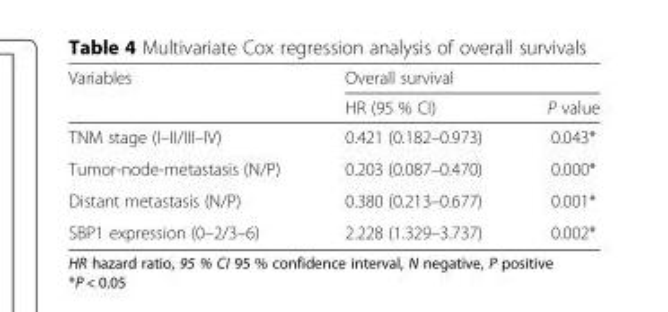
<table><thead><tr><td rowspan="2">Variables</td><td colspan="2">Overall survival</td></tr><tr><td>HR (95 % CI)</td><td>P value</td></tr></thead><tbody><tr><td>TNM stage (I–II/III–IV)</td><td>0.421 (0.182–0.973)</td><td>0.043*</td></tr><tr><td>Tumor-node-metastasis (N/P)</td><td>0.203 (0.087–0.470)</td><td>0.000*</td></tr><tr><td>Distant metastasis (N/P)</td><td>0.380 (0.213–0.677)</td><td>0.001*</td></tr><tr><td>SBP1 expression (0–2/3–6)</td><td>2.228 (1.329–3.737)</td><td>0.002*</td></tr></tbody></table>